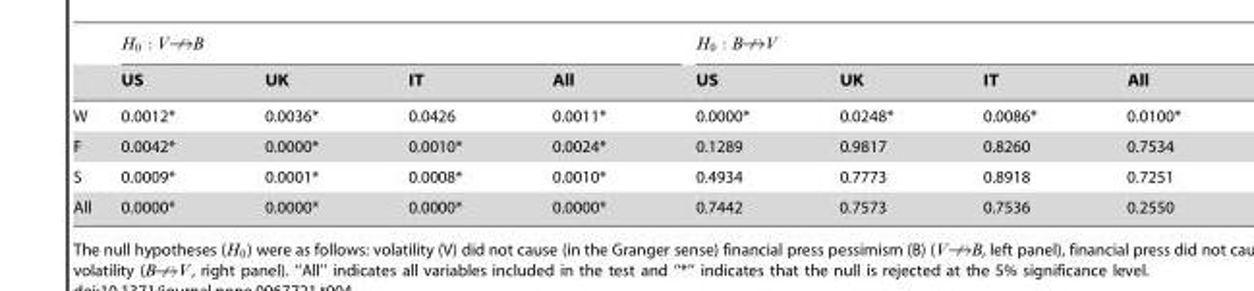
<table><thead><tr><td></td><td>US</td><td>UK</td><td>IT</td><td>All</td><td>US</td><td>UK</td><td>IT</td><td>All</td></tr></thead><tbody><tr><td>W</td><td>0.0012*</td><td>0.0036*</td><td>0.0426</td><td>0.0011*</td><td>0.0000*</td><td>0.0248*</td><td>0.0086*</td><td>0.0100*</td></tr><tr><td>F</td><td>0.0042*</td><td>0.0000*</td><td>0.0010*</td><td>0.0024*</td><td>0.1289</td><td>0.9817</td><td>0.8260</td><td>0.7534</td></tr><tr><td>S</td><td>0.0009*</td><td>0.0001*</td><td>0.0008*</td><td>0.0010*</td><td>0.4934</td><td>0.7773</td><td>0.8918</td><td>0.7251</td></tr><tr><td>All</td><td>0.0000*</td><td>0.0000*</td><td>0.0000*</td><td>0.0000*</td><td>0.7442</td><td>0.7573</td><td>0.7536</td><td>0.2550</td></tr></tbody></table>